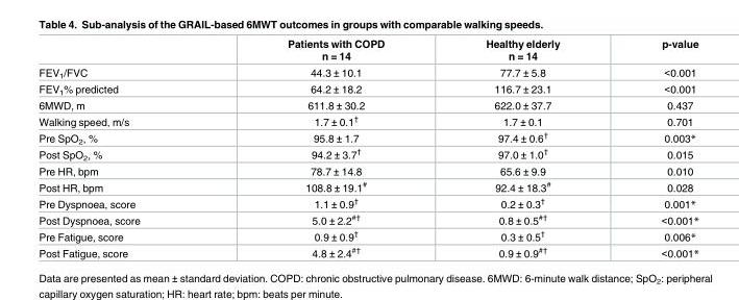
<table><thead><tr><td></td><td>Patients with COPD n = 14</td><td>Healthy elderly n = 14</td><td>p-value</td></tr></thead><tbody><tr><td>FEV<sub>1</sub>/FVC</td><td>44.3 ± 10.1</td><td>77.7 ± 5.8</td><td>&lt;0.001</td></tr><tr><td>FEV<sub>1</sub>% predicted</td><td>64.2 ± 18.2</td><td>116.7 ± 23.1</td><td>&lt;0.001</td></tr><tr><td>6MWD, m</td><td>611.8 ± 30.2</td><td>622.0 ± 37.7</td><td>0.437</td></tr><tr><td>Walking speed, m/s</td><td>1.7 ± 0.1<sup>†</sup></td><td>1.7 ± 0.1</td><td>0.701</td></tr><tr><td>Pre SpO<sub>2</sub>, %</td><td>95.8 ± 1.7</td><td>97.4 ± 0.6<sup>†</sup></td><td>0.003*</td></tr><tr><td>Post SpO<sub>2</sub>, %</td><td>94.2 ± 3.7<sup>†</sup></td><td>97.0 ± 1.0<sup>†</sup></td><td>0.015</td></tr><tr><td>Pre HR, bpm</td><td>78.7 ± 14.8</td><td>65.6 ± 9.9</td><td>0.010</td></tr><tr><td>Post HR, bpm</td><td>108.8 ± 19.1<sup>#</sup></td><td>92.4 ± 18.3<sup>#</sup></td><td>0.028</td></tr><tr><td>Pre Dyspnoea, score</td><td>1.1 ± 0.9<sup>†</sup></td><td>0.2 ± 0.3<sup>†</sup></td><td>0.001*</td></tr><tr><td>Post Dyspnoea, score</td><td>5.0 ± 2.2<sup>#†</sup></td><td>0.8 ± 0.5<sup>#†</sup></td><td>&lt;0.001*</td></tr><tr><td>Pre Fatigue, score</td><td>0.9 ± 0.9<sup>†</sup></td><td>0.3 ± 0.5<sup>†</sup></td><td>0.006*</td></tr><tr><td>Post Fatigue, score</td><td>4.8 ± 2.4<sup>#†</sup></td><td>0.9 ± 0.9<sup>#†</sup></td><td>&lt;0.001*</td></tr></tbody></table>